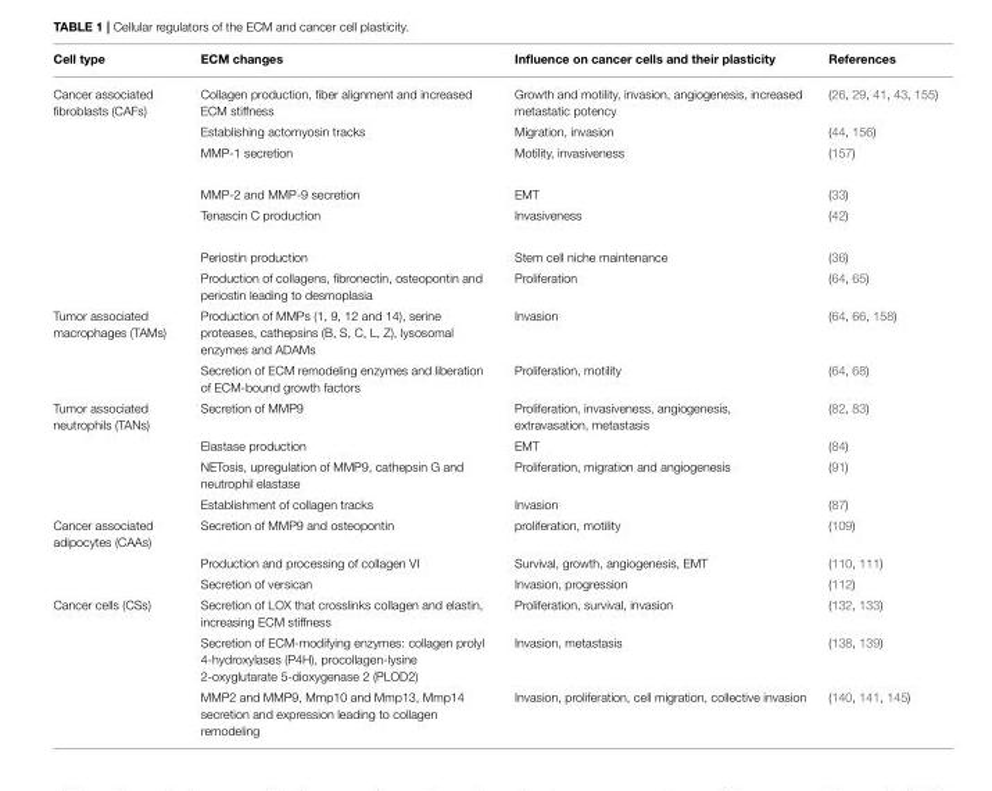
<table><thead><tr><td>Cell type</td><td>ECM changes</td><td>Influence on cancer cells and their plasticity</td><td>References</td></tr></thead><tbody><tr><td rowspan="7">Cancer associated fibroblasts (CAFs)</td><td>Collagen production, fiber alignment and increased ECM stiffness</td><td>Growth and motility, invasion, angiogenesis, increased metastatic potency</td><td>(26, 29, 41, 43, 155)</td></tr><tr><td>Establishing actomyosin tracks</td><td>Migration, invasion</td><td>(44, 156)</td></tr><tr><td>MMP-1 secretion</td><td>Motility, invasiveness</td><td>(157)</td></tr><tr><td>MMP-2 and MMP-9 secretion</td><td>EMT</td><td>(33)</td></tr><tr><td>Tenascin C production</td><td>Invasiveness</td><td>(42)</td></tr><tr><td>Periostin production</td><td>Stem cell niche maintenance</td><td>(36)</td></tr><tr><td>Production of collagens, fibronectin, osteopontin and periostin leading to desmoplasia</td><td>Proliferation</td><td>(64, 65)</td></tr><tr><td rowspan="2">Tumor associated macrophages (TAMs)</td><td>Production of MMPs (1, 9, 12 and 14), serine proteases, cathepsins (B, S, C, L, Z), lysosomal enzymes and ADAMs</td><td>Invasion</td><td>(64, 66, 158)</td></tr><tr><td>Secretion of ECM remodeling enzymes and liberation of ECM-bound growth factors</td><td>Proliferation, motility</td><td>(64, 68)</td></tr><tr><td rowspan="4">Tumor associated neutrophils (TANs)</td><td>Secretion of MMP9</td><td>Proliferation, invasiveness, angiogenesis, extravasation, metastasis</td><td>(82, 83)</td></tr><tr><td>Elastase production</td><td>EMT</td><td>(84)</td></tr><tr><td>NETosis, upregulation of MMP9, cathepsin G and neutrophil elastase</td><td>Proliferation, migration and angiogenesis</td><td>(91)</td></tr><tr><td>Establishment of collagen tracks</td><td>Invasion</td><td>(87)</td></tr><tr><td rowspan="3">Cancer associated adipocytes (CAAs)</td><td>Secretion of MMP9 and osteopontin</td><td>proliferation, motility</td><td>(109)</td></tr><tr><td>Production and processing of collagen VI</td><td>Survival, growth, angiogenesis, EMT</td><td>(110, 111)</td></tr><tr><td>Secretion of versican</td><td>Invasion, progression</td><td>(112)</td></tr><tr><td rowspan="3">Cancer cells (CSs)</td><td>Secretion of LOX that crosslinks collagen and elastin, increasing ECM stiffness</td><td>Proliferation, survival, invasion</td><td>(132, 133)</td></tr><tr><td>Secretion of ECM-modifying enzymes: collagen prolyl 4-hydroxylases (P4H), procollagen-lysine 2-oxyglutarate 5-dioxygenase 2 (PLOD2)</td><td>Invasion, metastasis</td><td>(138, 139)</td></tr><tr><td>MMP2 and MMP9, Mmp10 and Mmp13, Mmp14 secretion and expression leading to collagen remodeling</td><td>Invasion, proliferation, cell migration, collective invasion</td><td>(140, 141, 145)</td></tr></tbody></table>